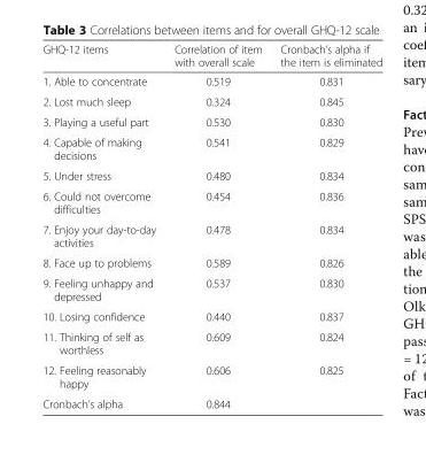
<table><thead><tr><td>GHQ-12 items</td><td>Correlation of item with overall scale</td><td>Cronbach’s alpha if the item is eliminated</td></tr></thead><tbody><tr><td>1. Able to concentrate</td><td>0.519</td><td>0.831</td></tr><tr><td>2. Lost much sleep</td><td>0.324</td><td>0.845</td></tr><tr><td>3. Playing a useful part</td><td>0.530</td><td>0.830</td></tr><tr><td>4. Capable of making decisions</td><td>0.541</td><td>0.829</td></tr><tr><td>5. Under stress</td><td>0.480</td><td>0.834</td></tr><tr><td>6. Could not overcome difficulties</td><td>0.454</td><td>0.836</td></tr><tr><td>7. Enjoy your day-to-day activities</td><td>0.478</td><td>0.834</td></tr><tr><td>8. Face up to problems</td><td>0.589</td><td>0.826</td></tr><tr><td>9. Feeling unhappy and depressed</td><td>0.537</td><td>0.830</td></tr><tr><td>10. Losing confidence</td><td>0.440</td><td>0.837</td></tr><tr><td>11. Thinking of self as worthless</td><td>0.609</td><td>0.824</td></tr><tr><td>12. Feeling reasonably happy</td><td>0.606</td><td>0.825</td></tr><tr><td>Cronbach’s alpha</td><td>0.844</td><td></td></tr></tbody></table>